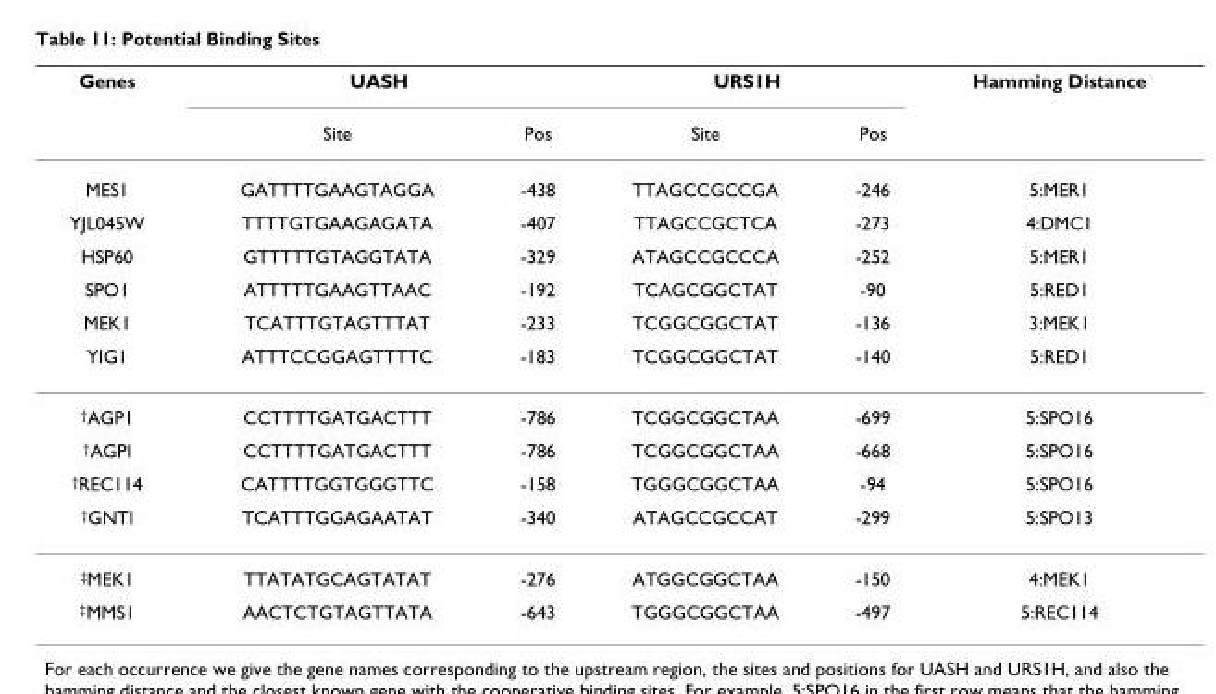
<table><thead><tr><td rowspan="2">Genes</td><td colspan="2">UASH</td><td colspan="2">URS1H</td><td rowspan="2">Hamming Distance</td></tr><tr><td>Site</td><td>Pos</td><td>Site</td><td>Pos</td></tr></thead><tbody><tr><td>MES1</td><td>GATTTTGAAGTAGGA</td><td>-438</td><td>TTAGCCGCCGA</td><td>-246</td><td>5:MER1</td></tr><tr><td>YJL045W</td><td>TTTTGTGAAGAGATA</td><td>-407</td><td>TTAGCCGCTCA</td><td>-273</td><td>4:DMC1</td></tr><tr><td>HSP60</td><td>GTTTTTGTAGGTATA</td><td>-329</td><td>ATAGCCGCCCA</td><td>-252</td><td>5:MER1</td></tr><tr><td>SPO1</td><td>ATTTTTGAAGTTAAC</td><td>-192</td><td>TCAGCGGCTAT</td><td>-90</td><td>5:RED1</td></tr><tr><td>MEK1</td><td>TCATTTGTAGTTTAT</td><td>-233</td><td>TCGGCGGCTAT</td><td>-136</td><td>3:MEK1</td></tr><tr><td>YIG1</td><td>ATTTCCGGAGTTTTC</td><td>-183</td><td>TCGGCGGCTAT</td><td>-140</td><td>5:RED1</td></tr><tr><td><sup>†</sup>AGP1</td><td>CCTTTTGATGACTTT</td><td>-786</td><td>TCGGCGGCTAA</td><td>-699</td><td>5:SPO16</td></tr><tr><td><sup>†</sup>AGPl</td><td>CCTTTTGATGACTTT</td><td>-786</td><td>TCGGCGGCTAA</td><td>-668</td><td>5:SPO16</td></tr><tr><td><sup>†</sup>REC114</td><td>CATTTTGGTGGGTTC</td><td>-158</td><td>TGGGCGGCTAA</td><td>-94</td><td>5:SPO16</td></tr><tr><td><sup>†</sup>GNTl</td><td>TCATTTGGAGAATAT</td><td>-340</td><td>ATAGCCGCCAT</td><td>-299</td><td>5:SPO13</td></tr><tr><td><sup>‡</sup>MEK1</td><td>TTATATGCAGTATAT</td><td>-276</td><td>ATGGCGGCTAA</td><td>-150</td><td>4:MEK1</td></tr><tr><td><sup>‡</sup>MMS1</td><td>AACTCTGTAGTTATA</td><td>-643</td><td>TGGGCGGCTAA</td><td>-497</td><td>5:REC114</td></tr></tbody></table>